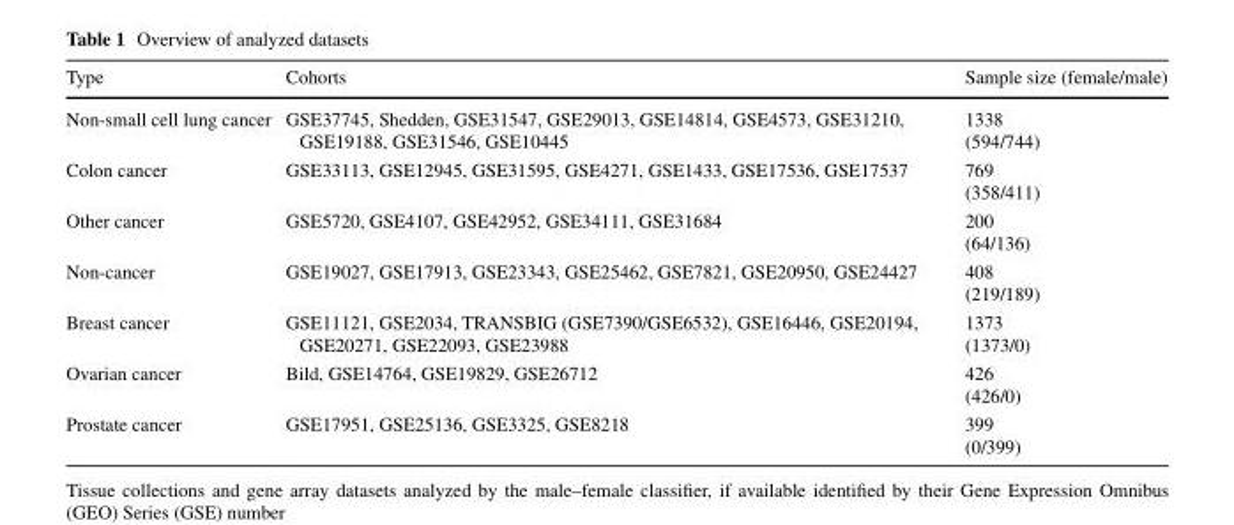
<table><thead><tr><td>Type</td><td>Cohorts</td><td>Sample size (female/male)</td></tr></thead><tbody><tr><td>Non-small cell lung cancer</td><td>GSE37745, Shedden, GSE31547, GSE29013, GSE14814, GSE4573, GSE31210, GSE19188, GSE31546, GSE10445</td><td>1338 (594/744)</td></tr><tr><td>Colon cancer</td><td>GSE33113, GSE12945, GSE31595, GSE4271, GSE1433, GSE17536, GSE17537</td><td>769 (358/411)</td></tr><tr><td>Other cancer</td><td>GSE5720, GSE4107, GSE42952, GSE34111, GSE31684</td><td>200 (64/136)</td></tr><tr><td>Non-cancer</td><td>GSE19027, GSE17913, GSE23343, GSE25462, GSE7821, GSE20950, GSE24427</td><td>408 (219/189)</td></tr><tr><td>Breast cancer</td><td>GSE11121, GSE2034, TRANSBIG (GSE7390/GSE6532), GSE16446, GSE20194, GSE20271, GSE22093, GSE23988</td><td>1373 (1373/0)</td></tr><tr><td>Ovarian cancer</td><td>Bild, GSE14764, GSE19829, GSE26712</td><td>426 (426/0)</td></tr><tr><td>Prostate cancer</td><td>GSE17951, GSE25136, GSE3325, GSE8218</td><td>399 (0/399)</td></tr></tbody></table>